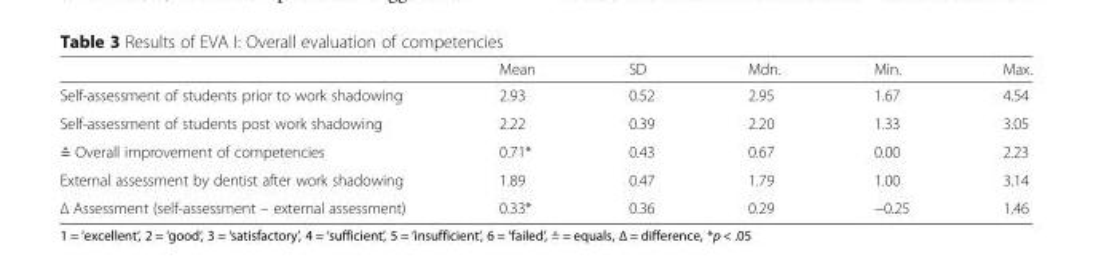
<table><thead><tr><td></td><td>Mean</td><td>SD</td><td>Mdn.</td><td>Min.</td><td>Max.</td></tr></thead><tbody><tr><td>Self-assessment of students prior to work shadowing</td><td>2.93</td><td>0.52</td><td>2.95</td><td>1.67</td><td>4.54</td></tr><tr><td>Self-assessment of students post work shadowing</td><td>2.22</td><td>0.39</td><td>2.20</td><td>1.33</td><td>3.05</td></tr><tr><td>≙ Overall improvement of competencies</td><td>0.71*</td><td>0.43</td><td>0.67</td><td>0.00</td><td>2.23</td></tr><tr><td>External assessment by dentist after work shadowing</td><td>1.89</td><td>0.47</td><td>1.79</td><td>1.00</td><td>3.14</td></tr><tr><td>Δ Assessment (self-assessment – external assessment)</td><td>0.33*</td><td>0.36</td><td>0.29</td><td>−0.25</td><td>1.46</td></tr></tbody></table>